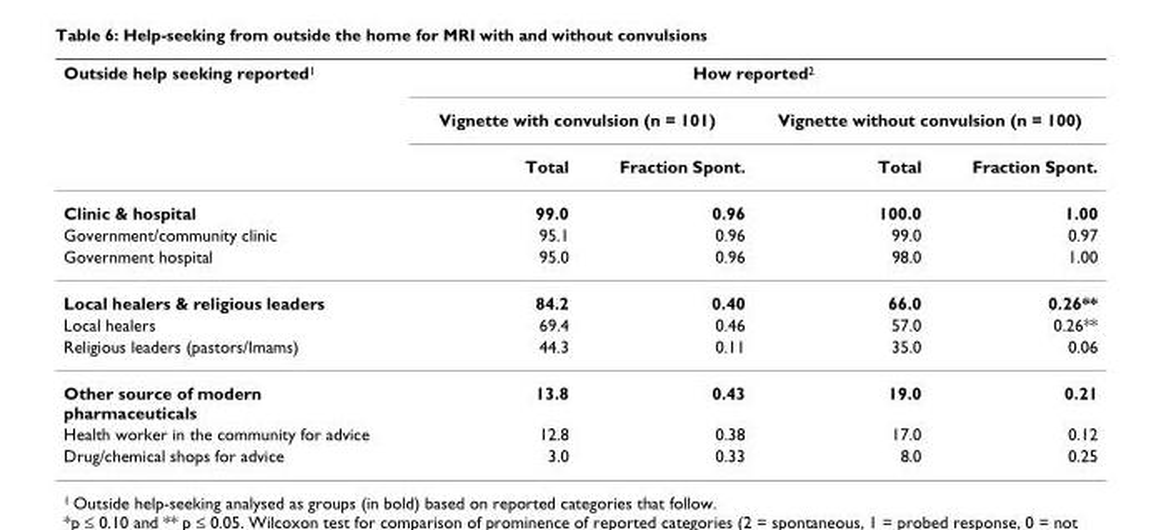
<table><thead><tr><td rowspan="3">Outside help seeking reported<sup>1</sup></td><td colspan="4">How reported<sup>2</sup></td></tr><tr><td colspan="2">Vignette with convulsion (n = 101)</td><td colspan="2">Vignette without convulsion (n = 100)</td></tr><tr><td>Total</td><td>Fraction Spont.</td><td>Total</td><td>Fraction Spont.</td></tr></thead><tbody><tr><td>Clinic &amp; hospital</td><td>99.0</td><td>0.96</td><td>100.0</td><td>1.00</td></tr><tr><td>Government/community clinic</td><td>95.1</td><td>0.96</td><td>99.0</td><td>0.97</td></tr><tr><td>Government hospital</td><td>95.0</td><td>0.96</td><td>98.0</td><td>1.00</td></tr><tr><td>Local healers &amp; religious leaders</td><td>84.2</td><td>0.40</td><td>66.0</td><td>0.26**</td></tr><tr><td>Local healers</td><td>69.4</td><td>0.46</td><td>57.0</td><td>0.26**</td></tr><tr><td>Religious leaders (pastors/Imams)</td><td>44.3</td><td>0.11</td><td>35.0</td><td>0.06</td></tr><tr><td>Other source of modern pharmaceuticals</td><td>13.8</td><td>0.43</td><td>19.0</td><td>0.21</td></tr><tr><td>Health worker in the community for advice</td><td>12.8</td><td>0.38</td><td>17.0</td><td>0.12</td></tr><tr><td>Drug/chemical shops for advice</td><td>3.0</td><td>0.33</td><td>8.0</td><td>0.25</td></tr></tbody></table>